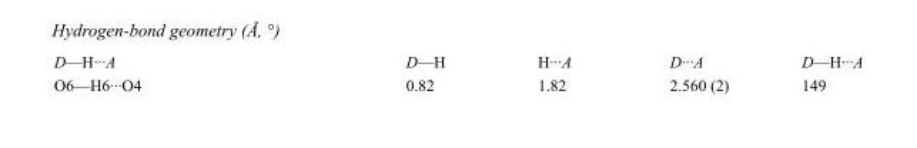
<table><tbody><tr><td>D—H···A</td><td>D—H</td><td>H···A</td><td>D···A</td><td>D—H···A</td></tr><tr><td>O6—H6···O4</td><td>0.82</td><td>1.82</td><td>2.560 (2)</td><td>149</td></tr></tbody></table>